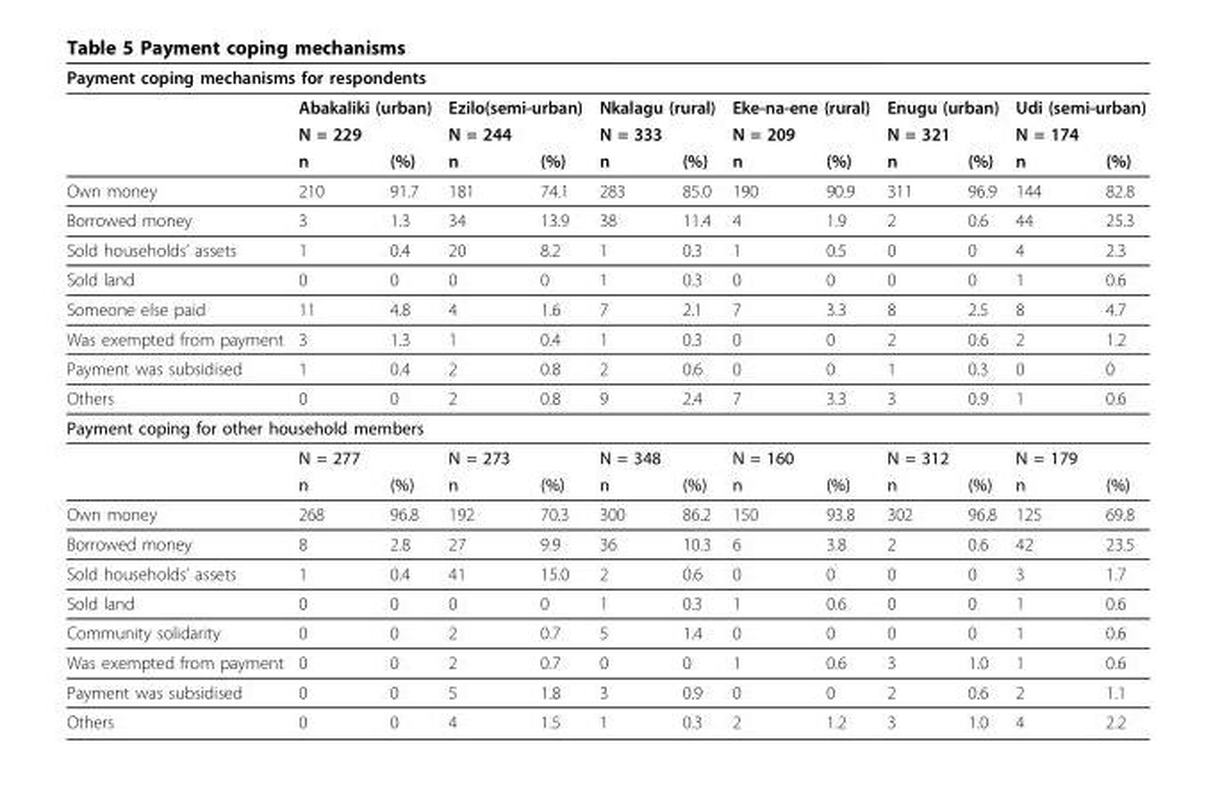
<table><thead><tr><td colspan="13">Payment coping mechanisms for respondents</td></tr><tr><td rowspan="3"></td><td rowspan="2" colspan="2">Abakaliki (urban) N = 229</td><td rowspan="2" colspan="2">Ezilo(semi-urban) N = 244</td><td rowspan="2" colspan="2">Nkalagu (rural) N = 333</td><td rowspan="2" colspan="2">Eke-na-ene (rural) N = 209</td><td rowspan="2" colspan="2">Enugu (urban) N = 321</td><td rowspan="2" colspan="2">Udi (semi-urban) N = 174</td></tr><tr></tr><tr><td>n</td><td>(%)</td><td>n</td><td>(%)</td><td>n</td><td>(%)</td><td>n</td><td>(%)</td><td>n</td><td>(%)</td><td>n</td><td>(%)</td></tr></thead><tbody><tr><td>Own money</td><td>210</td><td>91.7</td><td>181</td><td>74.1</td><td>283</td><td>85.0</td><td>190</td><td>90.9</td><td>311</td><td>96.9</td><td>144</td><td>82.8</td></tr><tr><td>Borrowed money</td><td>3</td><td>1.3</td><td>34</td><td>13.9</td><td>38</td><td>11.4</td><td>4</td><td>1.9</td><td>2</td><td>0.6</td><td>44</td><td>25.3</td></tr><tr><td>Sold households’ assets</td><td>1</td><td>0.4</td><td>20</td><td>8.2</td><td>1</td><td>0.3</td><td>1</td><td>0.5</td><td>0</td><td>0</td><td>4</td><td>2.3</td></tr><tr><td>Sold land</td><td>0</td><td>0</td><td>0</td><td>0</td><td>1</td><td>0.3</td><td>0</td><td>0</td><td>0</td><td>0</td><td>1</td><td>0.6</td></tr><tr><td>Someone else paid</td><td>11</td><td>4.8</td><td>4</td><td>1.6</td><td>7</td><td>2.1</td><td>7</td><td>3.3</td><td>8</td><td>2.5</td><td>8</td><td>4.7</td></tr><tr><td>Was exempted from payment</td><td>3</td><td>1.3</td><td>1</td><td>0.4</td><td>1</td><td>0.3</td><td>0</td><td>0</td><td>2</td><td>0.6</td><td>2</td><td>1.2</td></tr><tr><td>Payment was subsidised</td><td>1</td><td>0.4</td><td>2</td><td>0.8</td><td>2</td><td>0.6</td><td>0</td><td>0</td><td>1</td><td>0.3</td><td>0</td><td>0</td></tr><tr><td>Others</td><td>0</td><td>0</td><td>2</td><td>0.8</td><td>9</td><td>2.4</td><td>7</td><td>3.3</td><td>3</td><td>0.9</td><td>1</td><td>0.6</td></tr><tr><td colspan="13">Payment coping for other household members</td></tr><tr><td></td><td>N = 277</td><td></td><td>N = 273</td><td></td><td>N = 348</td><td></td><td>N = 160</td><td></td><td>N = 312</td><td></td><td>N = 179</td><td></td></tr><tr><td></td><td>n</td><td>(%)</td><td>n</td><td>(%)</td><td>n</td><td>(%)</td><td>n</td><td>(%)</td><td>n</td><td>(%)</td><td>n</td><td>(%)</td></tr><tr><td>Own money</td><td>268</td><td>96.8</td><td>192</td><td>70.3</td><td>300</td><td>86.2</td><td>150</td><td>93.8</td><td>302</td><td>96.8</td><td>125</td><td>69.8</td></tr><tr><td>Borrowed money</td><td>8</td><td>2.8</td><td>27</td><td>9.9</td><td>36</td><td>10.3</td><td>6</td><td>3.8</td><td>2</td><td>0.6</td><td>42</td><td>23.5</td></tr><tr><td>Sold households’ assets</td><td>1</td><td>0.4</td><td>41</td><td>15.0</td><td>2</td><td>0.6</td><td>0</td><td>0</td><td>0</td><td>0</td><td>3</td><td>1.7</td></tr><tr><td>Sold land</td><td>0</td><td>0</td><td>0</td><td>0</td><td>1</td><td>0.3</td><td>1</td><td>0.6</td><td>0</td><td>0</td><td>1</td><td>0.6</td></tr><tr><td>Community solidarity</td><td>0</td><td>0</td><td>2</td><td>0.7</td><td>5</td><td>1.4</td><td>0</td><td>0</td><td>0</td><td>0</td><td>1</td><td>0.6</td></tr><tr><td>Was exempted from payment</td><td>0</td><td>0</td><td>2</td><td>0.7</td><td>0</td><td>0</td><td>1</td><td>0.6</td><td>3</td><td>1.0</td><td>1</td><td>0.6</td></tr><tr><td>Payment was subsidised</td><td>0</td><td>0</td><td>5</td><td>1.8</td><td>3</td><td>0.9</td><td>0</td><td>0</td><td>2</td><td>0.6</td><td>2</td><td>1.1</td></tr><tr><td>Others</td><td>0</td><td>0</td><td>4</td><td>1.5</td><td>1</td><td>0.3</td><td>2</td><td>1.2</td><td>3</td><td>1.0</td><td>4</td><td>2.2</td></tr></tbody></table>